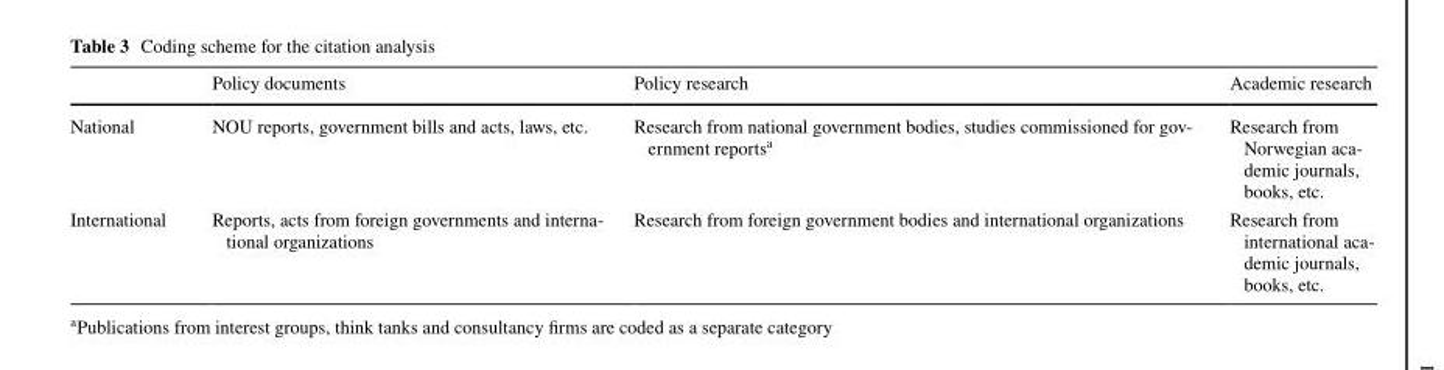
<table><thead><tr><td></td><td>Policy documents</td><td>Policy research</td><td>Academic research</td></tr></thead><tbody><tr><td>National</td><td>NOU reports, government bills and acts, laws, etc.</td><td>Research from national government bodies, studies commissioned for gov- ernment reportsa</td><td>Research from Norwegian aca- demic journals, books, etc.</td></tr><tr><td>International</td><td>Reports, acts from foreign governments and interna- tional organizations</td><td>Research from foreign government bodies and international organizations</td><td>Research from international aca- demic journals, books, etc.</td></tr></tbody></table>